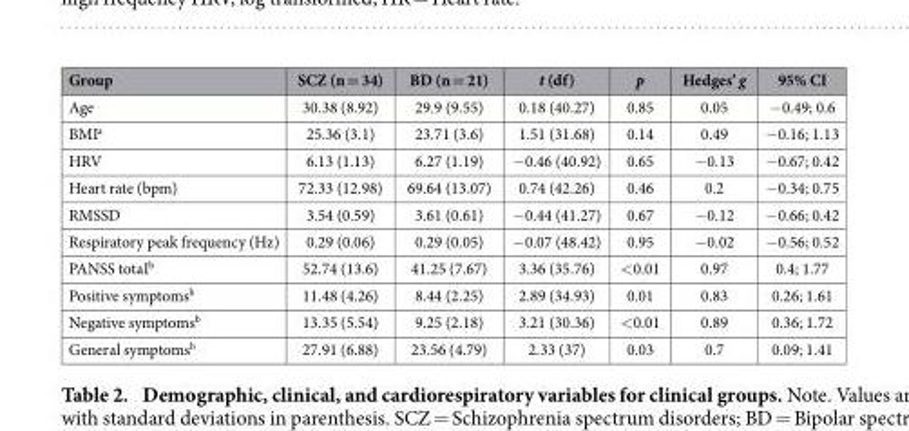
<table><thead><tr><td>Group</td><td>SCZ (n = 34)</td><td>BD (n = 21)</td><td>t (df)</td><td>p</td><td>Hedges’ g</td><td>95% CI</td></tr></thead><tbody><tr><td>Age</td><td>30.38 (8.92)</td><td>29.9 (9.55)</td><td>0.18 (40.27)</td><td>0.85</td><td>0.05</td><td>− 0.49; 0.6</td></tr><tr><td>BMI<sup>a</sup></td><td>25.36 (3.1)</td><td>23.71 (3.6)</td><td>1.51 (31.68)</td><td>0.14</td><td>0.49</td><td>− 0.16; 1.13</td></tr><tr><td>HRV</td><td>6.13 (1.13)</td><td>6.27 (1.19)</td><td>− 0.46 (40.92)</td><td>0.65</td><td>− 0.13</td><td>− 0.67; 0.42</td></tr><tr><td>Heart rate (bpm)</td><td>72.33 (12.98)</td><td>69.64 (13.07)</td><td>0.74 (42.26)</td><td>0.46</td><td>0.2</td><td>− 0.34; 0.75</td></tr><tr><td>RMSSD</td><td>3.54 (0.59)</td><td>3.61 (0.61)</td><td>− 0.44 (41.27)</td><td>0.67</td><td>− 0.12</td><td>− 0.66; 0.42</td></tr><tr><td>Respiratory peak frequency (Hz)</td><td>0.29 (0.06)</td><td>0.29 (0.05)</td><td>− 0.07 (48.42)</td><td>0.95</td><td>− 0.02</td><td>− 0.56; 0.52</td></tr><tr><td>PANSS totaI<sup>b</sup></td><td>52.74 (13.6)</td><td>41.25 (7.67)</td><td>3.36 (35.76)</td><td>&lt; 0.01</td><td>0.97</td><td>0.4; 1.77</td></tr><tr><td>Positive symptoms<sup>b</sup></td><td>11.48 (4.26)</td><td>8.44 (2.25)</td><td>2.89 (34.93)</td><td>0.01</td><td>0.83</td><td>0.26; 1.61</td></tr><tr><td>Negative symptoms<sup>b</sup></td><td>13.35 (5.54)</td><td>9.25 (2.18)</td><td>3.21 (30.36)</td><td>&lt; 0.01</td><td>0.89</td><td>0.36; 1.72</td></tr><tr><td>General symptoms<sup>b</sup></td><td>27.91 (6.88)</td><td>23.56 (4.79)</td><td>2.33 (37)</td><td>0.03</td><td>0.7</td><td>0.09; 1.41</td></tr></tbody></table>